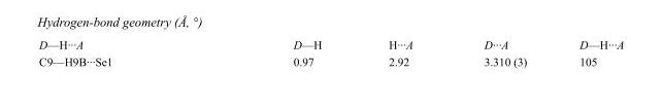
<table><tbody><tr><td>D—H···A</td><td>D—H</td><td>H···A</td><td>D···A</td><td>D—H···A</td></tr><tr><td>C9—H9B···Se1</td><td>0.97</td><td>2.92</td><td>3.310 (3)</td><td>105</td></tr></tbody></table>